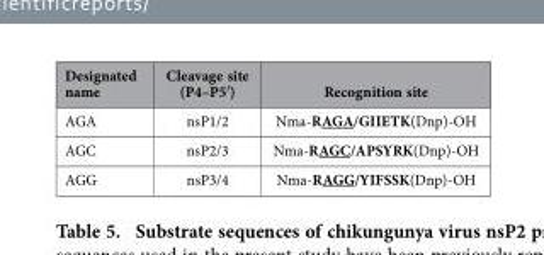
<table><thead><tr><td>Designated name</td><td>Cleavage site (P4–P5′)</td><td>Recognition site</td></tr></thead><tbody><tr><td>AGA</td><td>nsP1/2</td><td>Nma-RAGA/GIIETK(Dnp)-OH</td></tr><tr><td>AGC</td><td>nsP2/3</td><td>Nma-RAGC/APSYRK(Dnp)-OH</td></tr><tr><td>AGG</td><td>nsP3/4</td><td>Nma-RAGG/YIFSSK(Dnp)-OH</td></tr></tbody></table>